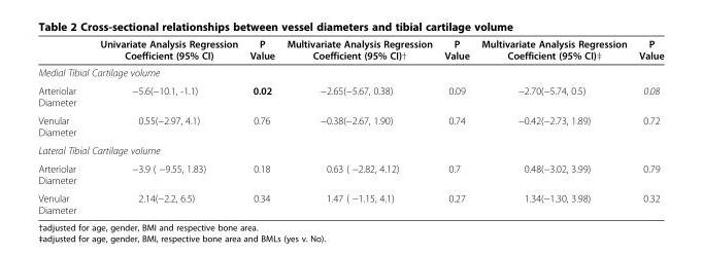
<table><thead><tr><td></td><td>Univariate Analysis Regression Coefficient (95% CI)</td><td>P Value</td><td>Multivariate Analysis Regression Coefficient (95% CI)†</td><td>P Value</td><td>Multivariate Analysis Regression Coefficient (95% CI)‡</td><td>P Value</td></tr></thead><tbody><tr><td colspan="7">Medial Tibial Cartilage volume</td></tr><tr><td>Arteriolar Diameter</td><td>−5.6(−10.1, -1.1)</td><td>0.02</td><td>−2.65(−5.67, 0.38)</td><td>0.09</td><td>−2.70(−5.74, 0.5)</td><td>0.08</td></tr><tr><td>Venular Diameter</td><td>0.55(−2.97, 4.1)</td><td>0.76</td><td>−0.38(−2.67, 1.90)</td><td>0.74</td><td>−0.42(−2.73, 1.89)</td><td>0.72</td></tr><tr><td colspan="7">Lateral Tibial Cartilage volume</td></tr><tr><td>Arteriolar Diameter</td><td>−3.9 ( −9.55, 1.83)</td><td>0.18</td><td>0.63 ( −2.82, 4.12)</td><td>0.7</td><td>0.48(−3.02, 3.99)</td><td>0.79</td></tr><tr><td>Venular Diameter</td><td>2.14(−2.2, 6.5)</td><td>0.34</td><td>1.47 ( −1.15, 4.1)</td><td>0.27</td><td>1.34(−1.30, 3.98)</td><td>0.32</td></tr></tbody></table>